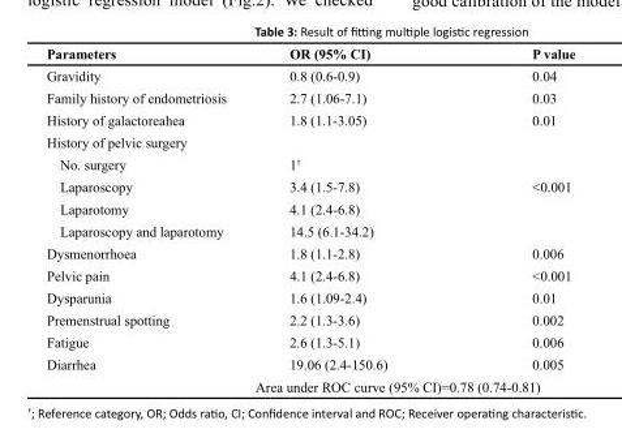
<table><thead><tr><td>Parameters</td><td>OR (95% CI)</td><td>P value</td></tr></thead><tbody><tr><td>Gravidity</td><td>0.8 (0.6-0.9)</td><td>0.04</td></tr><tr><td>Family history of endometriosis</td><td>2.7 (1.06-7.1)</td><td>0.03</td></tr><tr><td>History of galactoreahea</td><td>1.8 (1.1-3.05)</td><td>0.01</td></tr><tr><td colspan="3">History of pelvic surgery</td></tr><tr><td>No. surgery</td><td>1†</td><td rowspan="4">&lt;0.001</td></tr><tr><td>Laparoscopy</td><td>3.4 (1.5-7.8)</td></tr><tr><td>Laparotomy</td><td>4.1 (2.4-6.8)</td></tr><tr><td>Laparoscopy and laparotomy</td><td>14.5 (6.1-34.2)</td></tr><tr><td>Dysmenorrhoea</td><td>1.8 (1.1-2.8)</td><td>0.006</td></tr><tr><td>Pelvic pain</td><td>4.1 (2.4-6.8)</td><td>&lt;0.001</td></tr><tr><td>Dysparunia</td><td>1.6 (1.09-2.4)</td><td>0.01</td></tr><tr><td>Premenstrual spotting</td><td>2.2 (1.3-3.6)</td><td>0.002</td></tr><tr><td>Fatigue</td><td>2.6 (1.3-5.1)</td><td>0.006</td></tr><tr><td>Diarrhea</td><td>19.06 (2.4-150.6)</td><td>0.005</td></tr><tr><td colspan="3">Area under ROC curve (95% CI)=0.78 (0.74-0.81)</td></tr></tbody></table>